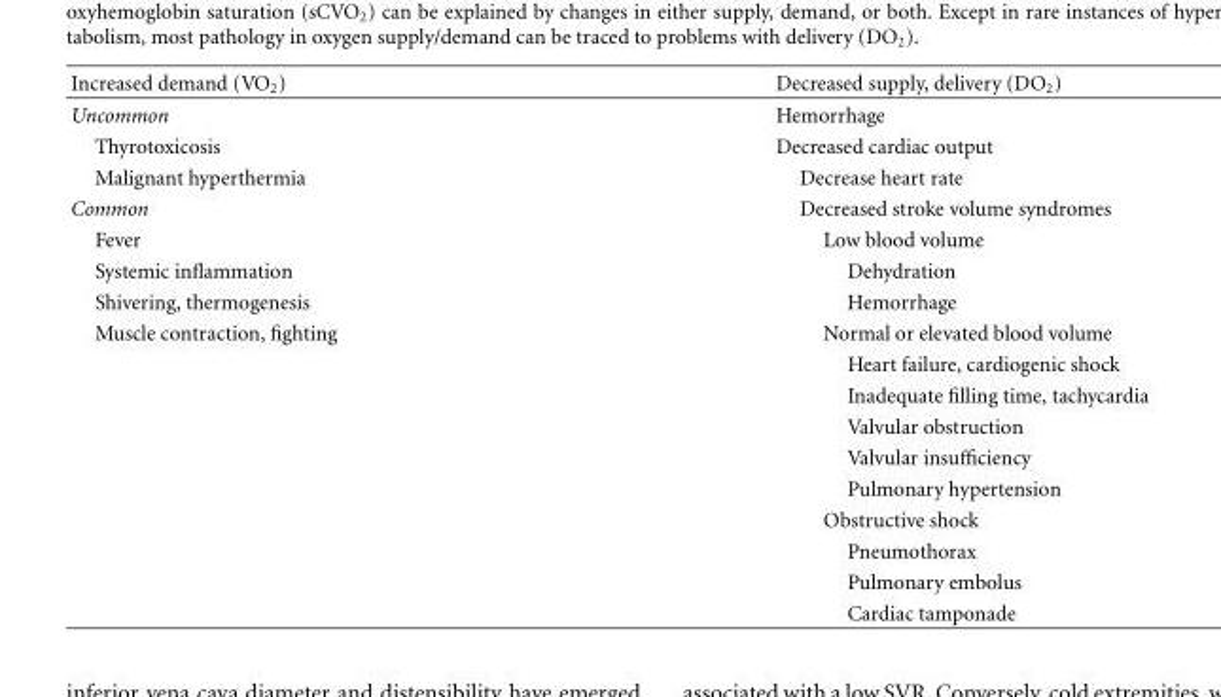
<table><thead><tr><td>Increased demand (VO<sub>2</sub>)</td><td>Decreased supply, delivery (DO<sub>2</sub>)</td></tr></thead><tbody><tr><td>Uncommon</td><td>Hemorrhage</td></tr><tr><td>Thyrotoxicosis</td><td>Decreased cardiac output</td></tr><tr><td>Malignant hyperthermia</td><td>Decrease heart rate</td></tr><tr><td>Common</td><td>Decreased stroke volume syndromes</td></tr><tr><td>Fever</td><td>Low blood volume</td></tr><tr><td>Systemic inflammation</td><td>Dehydration</td></tr><tr><td>Shivering, thermogenesis</td><td>Hemorrhage</td></tr><tr><td rowspan="10">Muscle contraction, fighting</td><td>Normal or elevated blood volume</td></tr><tr><td>Heart failure, cardiogenic shock</td></tr><tr><td>Inadequate filling time, tachycardia</td></tr><tr><td>Valvular obstruction</td></tr><tr><td>Valvular insufficiency</td></tr><tr><td>Pulmonary hypertension</td></tr><tr><td>Obstructive shock</td></tr><tr><td>Pneumothorax</td></tr><tr><td>Pulmonary embolus</td></tr><tr><td>Cardiac tamponade</td></tr></tbody></table>